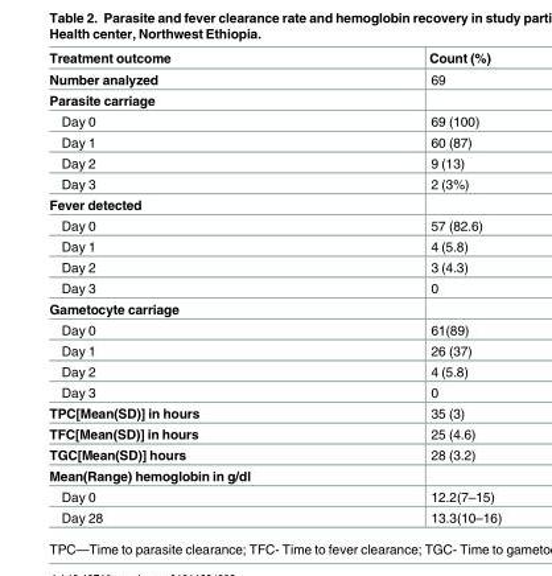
<table><thead><tr><td>Treatment outcome</td><td>Count (%)</td></tr></thead><tbody><tr><td>Number analyzed</td><td>69</td></tr><tr><td colspan="2">Parasite carriage</td></tr><tr><td>Day 0</td><td>69 (100)</td></tr><tr><td>Day 1</td><td>60 (87)</td></tr><tr><td>Day 2</td><td>9 (13)</td></tr><tr><td>Day 3</td><td>2 (3%)</td></tr><tr><td colspan="2">Fever detected</td></tr><tr><td>Day 0</td><td>57 (82.6)</td></tr><tr><td>Day 1</td><td>4 (5.8)</td></tr><tr><td>Day 2</td><td>3 (4.3)</td></tr><tr><td>Day 3</td><td>0</td></tr><tr><td colspan="2">Gametocyte carriage</td></tr><tr><td>Day 0</td><td>61(89)</td></tr><tr><td>Day 1</td><td>26 (37)</td></tr><tr><td>Day 2</td><td>4 (5.8)</td></tr><tr><td>Day 3</td><td>0</td></tr><tr><td>TPC[Mean(SD)] in hours</td><td>35 (3)</td></tr><tr><td>TFC[Mean(SD)] in hours</td><td>25 (4.6)</td></tr><tr><td>TGC[Mean(SD)] hours</td><td>28 (3.2)</td></tr><tr><td colspan="2">Mean(Range) hemoglobin in g/dl</td></tr><tr><td>Day 0</td><td>12.2(7–15)</td></tr><tr><td>Day 28</td><td>13.3(10–16)</td></tr></tbody></table>